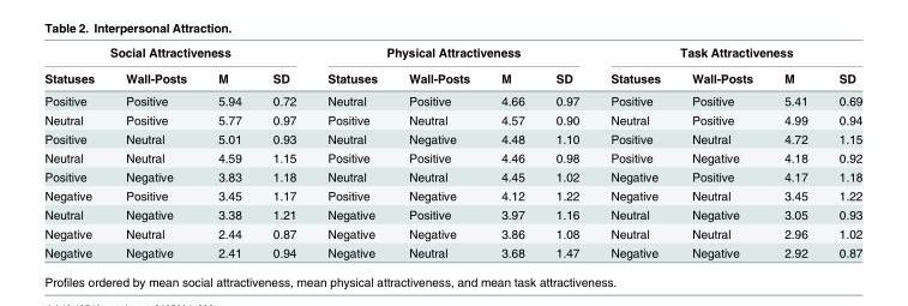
<table><thead><tr><td colspan="4">Social Attractiveness</td><td colspan="4">Physical Attractiveness</td><td colspan="4">Task Attractiveness</td></tr><tr><td>Statuses</td><td>Wall-Posts</td><td>M</td><td>SD</td><td>Statuses</td><td>Wall-Posts</td><td>M</td><td>SD</td><td>Statuses</td><td>Wall-Posts</td><td>M</td><td>SD</td></tr></thead><tbody><tr><td>Positive</td><td>Positive</td><td>5.94</td><td>0.72</td><td>Neutral</td><td>Positive</td><td>4.66</td><td>0.97</td><td>Positive</td><td>Positive</td><td>5.41</td><td>0.69</td></tr><tr><td>Neutral</td><td>Positive</td><td>5.77</td><td>0.97</td><td>Positive</td><td>Neutral</td><td>4.57</td><td>0.90</td><td>Neutral</td><td>Positive</td><td>4.99</td><td>0.94</td></tr><tr><td>Positive</td><td>Neutral</td><td>5.01</td><td>0.93</td><td>Neutral</td><td>Negative</td><td>4.48</td><td>1.10</td><td>Positive</td><td>Neutral</td><td>4.72</td><td>1.15</td></tr><tr><td>Neutral</td><td>Neutral</td><td>4.59</td><td>1.15</td><td>Positive</td><td>Positive</td><td>4.46</td><td>0.98</td><td>Positive</td><td>Negative</td><td>4.18</td><td>0.92</td></tr><tr><td>Positive</td><td>Negative</td><td>3.83</td><td>1.18</td><td>Neutral</td><td>Neutral</td><td>4.45</td><td>1.02</td><td>Negative</td><td>Positive</td><td>4.17</td><td>1.18</td></tr><tr><td>Negative</td><td>Positive</td><td>3.45</td><td>1.17</td><td>Positive</td><td>Negative</td><td>4.12</td><td>1.22</td><td>Negative</td><td>Neutral</td><td>3.45</td><td>1.22</td></tr><tr><td>Neutral</td><td>Negative</td><td>3.38</td><td>1.21</td><td>Negative</td><td>Positive</td><td>3.97</td><td>1.16</td><td>Neutral</td><td>Negative</td><td>3.05</td><td>0.93</td></tr><tr><td>Negative</td><td>Neutral</td><td>2.44</td><td>0.87</td><td>Negative</td><td>Negative</td><td>3.86</td><td>1.08</td><td>Neutral</td><td>Neutral</td><td>2.96</td><td>1.02</td></tr><tr><td>Negative</td><td>Negative</td><td>2.41</td><td>0.94</td><td>Negative</td><td>Neutral</td><td>3.68</td><td>1.47</td><td>Negative</td><td>Negative</td><td>2.92</td><td>0.87</td></tr></tbody></table>